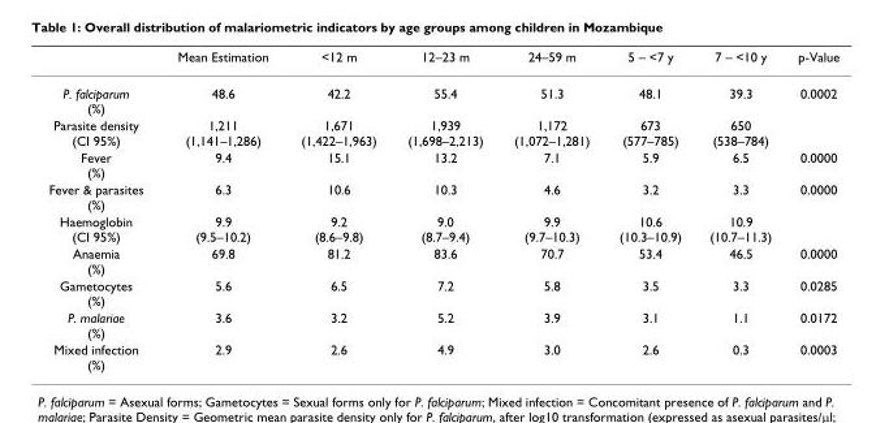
<table><thead><tr><td></td><td>Mean Estimation</td><td>&lt;12 m</td><td>12–23 m</td><td>24–59 m</td><td>5 – &lt;7 y</td><td>7 – &lt;10 y</td><td>p-Value</td></tr></thead><tbody><tr><td>P. falciparum (%)</td><td>48.6</td><td>42.2</td><td>55.4</td><td>51.3</td><td>48.1</td><td>39.3</td><td>0.0002</td></tr><tr><td>Parasite density (CI 95%)</td><td>1,211 (1,141–1,286)</td><td>1,671 (1,422–1,963)</td><td>1,939 (1,698–2,213)</td><td>1,172 (1,072–1,281)</td><td>673 (577–785)</td><td>650 (538–784)</td><td></td></tr><tr><td>Fever (%)</td><td>9.4</td><td>15.1</td><td>13.2</td><td>7.1</td><td>5.9</td><td>6.5</td><td>0.0000</td></tr><tr><td>Fever &amp; parasites (%)</td><td>6.3</td><td>10.6</td><td>10.3</td><td>4.6</td><td>3.2</td><td>3.3</td><td>0.0000</td></tr><tr><td>Haemoglobin (CI 95%)</td><td>9.9 (9.5–10.2)</td><td>9.2 (8.6–9.8)</td><td>9.0 (8.7–9.4)</td><td>9.9 (9.7–10.3)</td><td>10.6 (10.3–10.9)</td><td>10.9 (10.7–11.3)</td><td></td></tr><tr><td>Anaemia (%)</td><td>69.8</td><td>81.2</td><td>83.6</td><td>70.7</td><td>53.4</td><td>46.5</td><td>0.0000</td></tr><tr><td>Gametocytes (%)</td><td>5.6</td><td>6.5</td><td>7.2</td><td>5.8</td><td>3.5</td><td>3.3</td><td>0.0285</td></tr><tr><td>P. malariae (%)</td><td>3.6</td><td>3.2</td><td>5.2</td><td>3.9</td><td>3.1</td><td>1.1</td><td>0.0172</td></tr><tr><td>Mixed infection (%)</td><td>2.9</td><td>2.6</td><td>4.9</td><td>3.0</td><td>2.6</td><td>0.3</td><td>0.0003</td></tr></tbody></table>